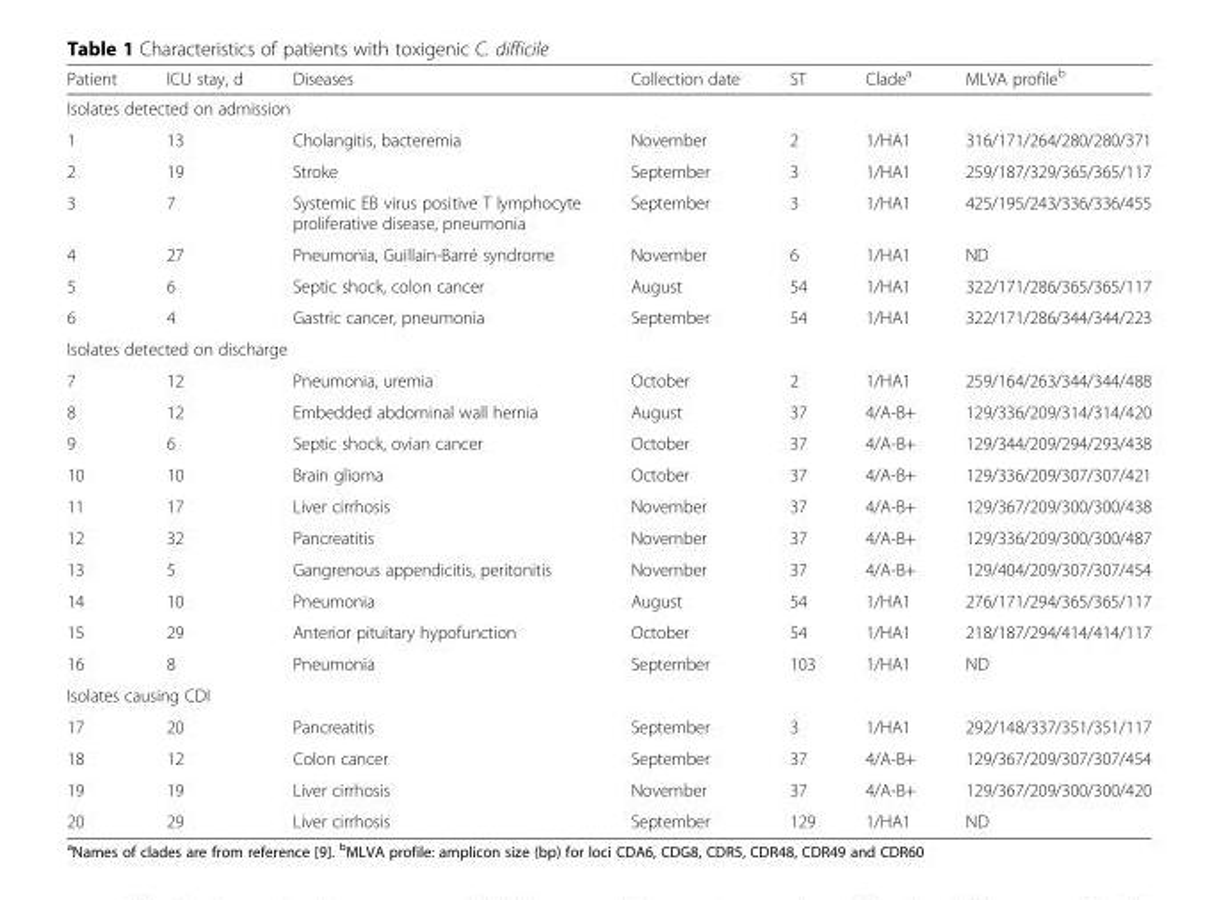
<table><thead><tr><td>Patient</td><td>ICU stay, d</td><td>Diseases</td><td>Collection date</td><td>ST</td><td>Clade<sup>a</sup></td><td>MLVA profile<sup>b</sup></td></tr></thead><tbody><tr><td colspan="7">Isolates detected on admission</td></tr><tr><td>1</td><td>13</td><td>Cholangitis, bacteremia</td><td>November</td><td>2</td><td>1/HA1</td><td>316/171/264/280/280/371</td></tr><tr><td>2</td><td>19</td><td>Stroke</td><td>September</td><td>3</td><td>1/HA1</td><td>259/187/329/365/365/117</td></tr><tr><td>3</td><td>7</td><td>Systemic EB virus positive T lymphocyte proliferative disease, pneumonia</td><td>September</td><td>3</td><td>1/HA1</td><td>425/195/243/336/336/455</td></tr><tr><td>4</td><td>27</td><td>Pneumonia, Guillain-Barré syndrome</td><td>November</td><td>6</td><td>1/HA1</td><td>ND</td></tr><tr><td>5</td><td>6</td><td>Septic shock, colon cancer</td><td>August</td><td>54</td><td>1/HA1</td><td>322/171/286/365/365/117</td></tr><tr><td>6</td><td>4</td><td>Gastric cancer, pneumonia</td><td>September</td><td>54</td><td>1/HA1</td><td>322/171/286/344/344/223</td></tr><tr><td colspan="7">Isolates detected on discharge</td></tr><tr><td>7</td><td>12</td><td>Pneumonia, uremia</td><td>October</td><td>2</td><td>1/HA1</td><td>259/164/263/344/344/488</td></tr><tr><td>8</td><td>12</td><td>Embedded abdominal wall hernia</td><td>August</td><td>37</td><td>4/A-B+</td><td>129/336/209/314/314/420</td></tr><tr><td>9</td><td>6</td><td>Septic shock, ovian cancer</td><td>October</td><td>37</td><td>4/A-B+</td><td>129/344/209/294/293/438</td></tr><tr><td>10</td><td>10</td><td>Brain glioma</td><td>October</td><td>37</td><td>4/A-B+</td><td>129/336/209/307/307/421</td></tr><tr><td>11</td><td>17</td><td>Liver cirrhosis</td><td>November</td><td>37</td><td>4/A-B+</td><td>129/367/209/300/300/438</td></tr><tr><td>12</td><td>32</td><td>Pancreatitis</td><td>November</td><td>37</td><td>4/A-B+</td><td>129/336/209/300/300/487</td></tr><tr><td>13</td><td>5</td><td>Gangrenous appendicitis, peritonitis</td><td>November</td><td>37</td><td>4/A-B+</td><td>129/404/209/307/307/454</td></tr><tr><td>14</td><td>10</td><td>Pneumonia</td><td>August</td><td>54</td><td>1/HA1</td><td>276/171/294/365/365/117</td></tr><tr><td>15</td><td>29</td><td>Anterior pituitary hypofunction</td><td>October</td><td>54</td><td>1/HA1</td><td>218/187/294/414/414/117</td></tr><tr><td>16</td><td>8</td><td>Pneumonia</td><td>September</td><td>103</td><td>1/HA1</td><td>ND</td></tr><tr><td colspan="7">Isolates causing CDI</td></tr><tr><td>17</td><td>20</td><td>Pancreatitis</td><td>September</td><td>3</td><td>1/HA1</td><td>292/148/337/351/351/117</td></tr><tr><td>18</td><td>12</td><td>Colon cancer</td><td>September</td><td>37</td><td>4/A-B+</td><td>129/367/209/307/307/454</td></tr><tr><td>19</td><td>19</td><td>Liver cirrhosis</td><td>November</td><td>37</td><td>4/A-B+</td><td>129/367/209/300/300/420</td></tr><tr><td>20</td><td>29</td><td>Liver cirrhosis</td><td>September</td><td>129</td><td>1/HA1</td><td>ND</td></tr></tbody></table>